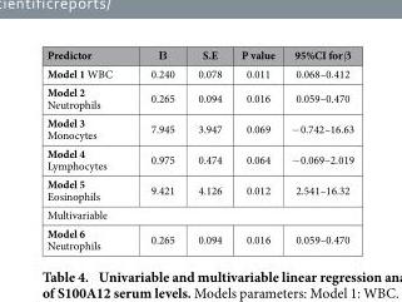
<table><thead><tr><td>Predictor</td><td>Β</td><td>S.E</td><td>P value</td><td>95%CI for β</td></tr></thead><tbody><tr><td>Model 1 WBC</td><td>0.240</td><td>0.078</td><td>0.011</td><td>0.068–0.412</td></tr><tr><td>Model 2 Neutrophils</td><td>0.265</td><td>0.094</td><td>0.016</td><td>0.059–0.470</td></tr><tr><td>Model 3 Monocytes</td><td>7.945</td><td>3.947</td><td>0.069</td><td>− 0.742–16.63</td></tr><tr><td>Model 4 Lymphocytes</td><td>0.975</td><td>0.474</td><td>0.064</td><td>− 0.069–2.019</td></tr><tr><td>Model 5 Eosinophils</td><td>9.421</td><td>4.126</td><td>0.012</td><td>2.541–16.32</td></tr><tr><td colspan="5">Multivariable</td></tr><tr><td>Model 6 Neutrophils</td><td>0.265</td><td>0.094</td><td>0.016</td><td>0.059–0.470</td></tr></tbody></table>